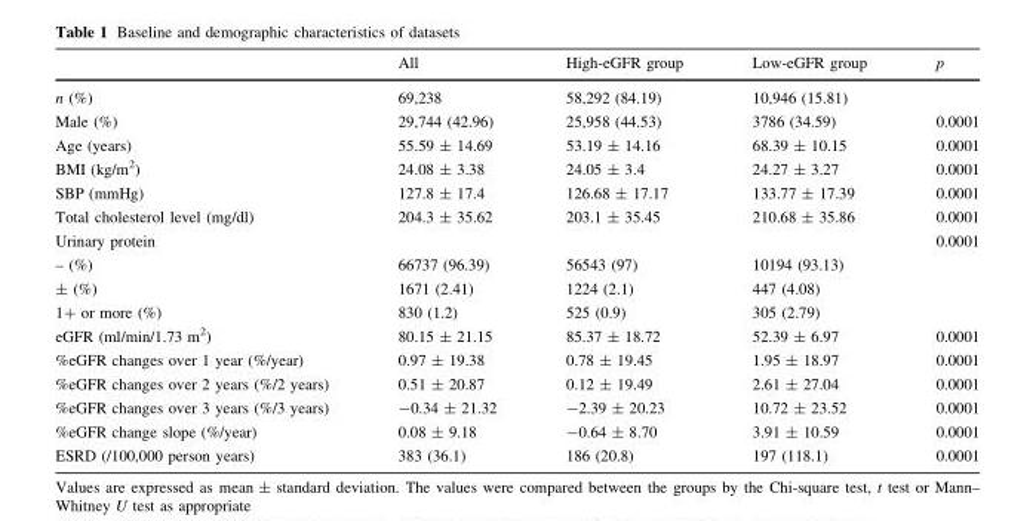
<table><thead><tr><td></td><td>All</td><td>High-eGFR group</td><td>Low-eGFR group</td><td>p</td></tr></thead><tbody><tr><td>n (%)</td><td>69,238</td><td>58,292 (84.19)</td><td>10,946 (15.81)</td><td></td></tr><tr><td>Male (%)</td><td>29,744 (42.96)</td><td>25,958 (44.53)</td><td>3786 (34.59)</td><td>0.0001</td></tr><tr><td>Age (years)</td><td>55.59 ± 14.69</td><td>53.19 ± 14.16</td><td>68.39 ± 10.15</td><td>0.0001</td></tr><tr><td>BMI (kg/m<sup>2</sup>)</td><td>24.08 ± 3.38</td><td>24.05 ± 3.4</td><td>24.27 ± 3.27</td><td>0.0001</td></tr><tr><td>SBP (mmHg)</td><td>127.8 ± 17.4</td><td>126.68 ± 17.17</td><td>133.77 ± 17.39</td><td>0.0001</td></tr><tr><td>Total cholesterol level (mg/dl)</td><td>204.3 ± 35.62</td><td>203.1 ± 35.45</td><td>210.68 ± 35.86</td><td>0.0001</td></tr><tr><td colspan="4">Urinary protein</td><td>0.0001</td></tr><tr><td>– (%)</td><td>66737 (96.39)</td><td>56543 (97)</td><td>10194 (93.13)</td><td></td></tr><tr><td>± (%)</td><td>1671 (2.41)</td><td>1224 (2.1)</td><td>447 (4.08)</td><td></td></tr><tr><td>1+ or more (%)</td><td>830 (1.2)</td><td>525 (0.9)</td><td>305 (2.79)</td><td></td></tr><tr><td>eGFR (ml/min/1.73 m<sup>2</sup>)</td><td>80.15 ± 21.15</td><td>85.37 ± 18.72</td><td>52.39 ± 6.97</td><td>0.0001</td></tr><tr><td>%eGFR changes over 1 year (%/year)</td><td>0.97 ± 19.38</td><td>0.78 ± 19.45</td><td>1.95 ± 18.97</td><td>0.0001</td></tr><tr><td>%eGFR changes over 2 years (%/2 years)</td><td>0.51 ± 20.87</td><td>0.12 ± 19.49</td><td>2.61 ± 27.04</td><td>0.0001</td></tr><tr><td>%eGFR changes over 3 years (%/3 years)</td><td>-0.34 ± 21.32</td><td>-2.39 ± 20.23</td><td>10.72 ± 23.52</td><td>0.0001</td></tr><tr><td>%eGFR change slope (%/year)</td><td>0.08 ± 9.18</td><td>-0.64 ± 8.70</td><td>3.91 ± 10.59</td><td>0.0001</td></tr><tr><td>ESRD (/100,000 person years)</td><td>383 (36.1)</td><td>186 (20.8)</td><td>197 (118.1)</td><td>0.0001</td></tr></tbody></table>